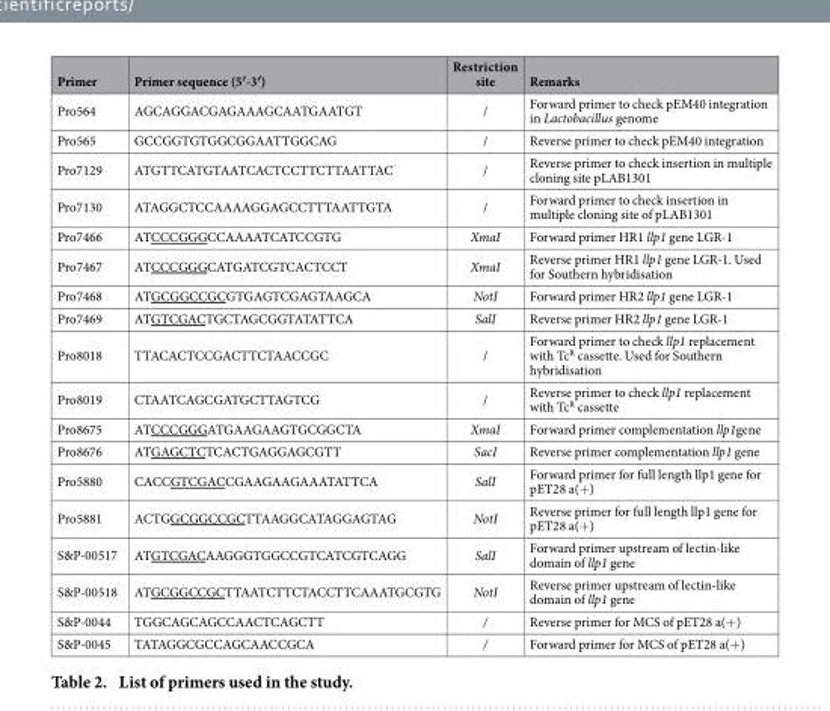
<table><thead><tr><td>Primer</td><td>Primer sequence (5′-3′)</td><td>Restriction site</td><td>Remarks</td></tr></thead><tbody><tr><td>Pro564</td><td>AGCAGGACGAGAAAGCAATGAATGT</td><td>/</td><td>Forward primer to check pEM40 integration in Lactobacillus genome</td></tr><tr><td>Pro565</td><td>GCCGGTGTGGCGGAATTGGCAG</td><td>/</td><td>Reverse primer to check pEM40 integration</td></tr><tr><td>Pro7129</td><td>ATGTTCATGTAATCACTCCTTCTTAATTAC</td><td>/</td><td>Reverse primer to check insertion in multiple cloning site pLAB1301</td></tr><tr><td>Pro7130</td><td>ATAGGCTCCAAAAGGAGCCTTTAATTGTA</td><td>/</td><td>Forward primer to check insertion in multiple cloning site of pLAB1301</td></tr><tr><td>Pro7466</td><td>ATCCCGGGCCAAAATCATCCGTG</td><td>XmaI</td><td>Forward primer HR1 llp1 gene LGR-1</td></tr><tr><td>Pro7467</td><td>ATCCCGGGCATGATCGTCACTCCT</td><td>XmaI</td><td>Reverse primer HR1 llp1 gene LGR-1. Used for Southern hybridisation</td></tr><tr><td>Pro7468</td><td>ATGCGGCCGCGTGAGTCGAGTAAGCA</td><td>NotI</td><td>Forward primer HR2 llp1 gene LGR-1</td></tr><tr><td>Pro7469</td><td>ATGTCGACTGCTAGCGGTATATTCA</td><td>SalI</td><td>Reverse primer HR2 llp1 gene LGR-1</td></tr><tr><td>Pro8018</td><td>TTACACTCCGACTTCTAACCGC</td><td>/</td><td>Forward primer to check llp1 replacement with Tc<sup>R</sup> cassette. Used for Southern hybridisation</td></tr><tr><td>Pro8019</td><td>CTAATCAGCGATGCTTAGTCG</td><td>/</td><td>Reverse primer to check llp1 replacement with Tc<sup>R</sup> cassette</td></tr><tr><td>Pro8675</td><td>ATCCCGGGATGAAGAAGTGCGGCTA</td><td>XmaI</td><td>Forward primer complementation llp1gene</td></tr><tr><td>Pro8676</td><td>ATGAGCTCTCACTGAGGAGCGTT</td><td>SacI</td><td>Reverse primer complementation llp1 gene</td></tr><tr><td>Pro5880</td><td>CACCGTCGACCGAAGAAGAAATATTCA</td><td>SalI</td><td>Forward primer for full length llp1 gene for pET28 a(+ )</td></tr><tr><td>Pro5881</td><td>ACTGGCGGCCGCTTAAGGCATAGGAGTAG</td><td>NotI</td><td>Reverse primer for full length llp1 gene for pET28 a(+ )</td></tr><tr><td>S&amp;P-00517</td><td>ATGTCGACAAGGGTGGCCGTCATCGTCAGG</td><td>SalI</td><td>Forward primer upstream of lectin-like domain of llp1 gene</td></tr><tr><td>S&amp;P-00518</td><td>ATGCGGCCGCTTAATCTTCTACCTTCAAATGCGTG</td><td>NotI</td><td>Reverse primer upstream of lectin-like domain of llp1 gene</td></tr><tr><td>S&amp;P-0044</td><td>TGGCAGCAGCCAACTCAGCTT</td><td>/</td><td>Reverse primer for MCS of pET28 a(+ )</td></tr><tr><td>S&amp;P-0045</td><td>TATAGGCGCCAGCAACCGCA</td><td>/</td><td>Forward primer for MCS of pET28 a(+ )</td></tr></tbody></table>